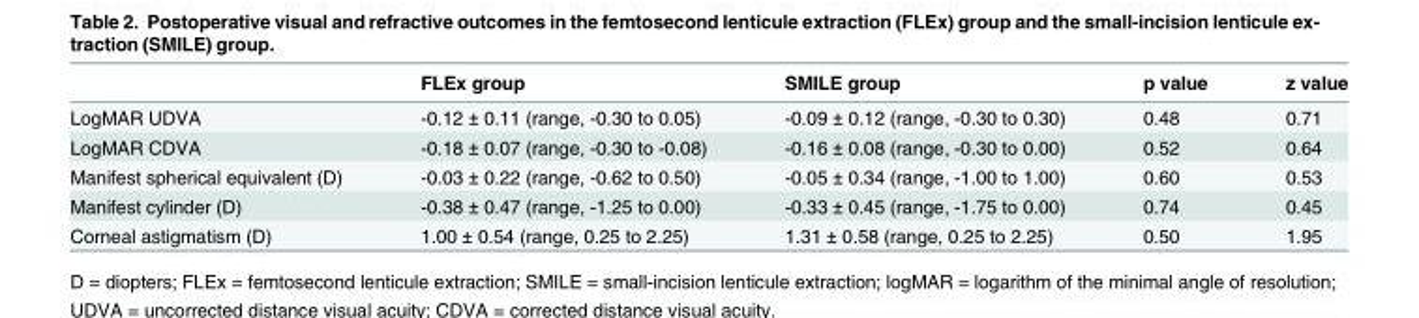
<table><thead><tr><td></td><td>FLEx group</td><td>SMILE group</td><td>p value</td><td>z value</td></tr></thead><tbody><tr><td>LogMAR UDVA</td><td>-0.12 ± 0.11 (range, -0.30 to 0.05)</td><td>-0.09 ± 0.12 (range, -0.30 to 0.30)</td><td>0.48</td><td>0.71</td></tr><tr><td>LogMAR CDVA</td><td>-0.18 ± 0.07 (range, -0.30 to -0.08)</td><td>-0.16 ± 0.08 (range, -0.30 to 0.00)</td><td>0.52</td><td>0.64</td></tr><tr><td>Manifest spherical equivalent (D)</td><td>-0.03 ± 0.22 (range, -0.62 to 0.50)</td><td>-0.05 ± 0.34 (range, -1.00 to 1.00)</td><td>0.60</td><td>0.53</td></tr><tr><td>Manifest cylinder (D)</td><td>-0.38 ± 0.47 (range, -1.25 to 0.00)</td><td>-0.33 ± 0.45 (range, -1.75 to 0.00)</td><td>0.74</td><td>0.45</td></tr><tr><td>Corneal astigmatism (D)</td><td>1.00 ± 0.54 (range, 0.25 to 2.25)</td><td>1.31 ± 0.58 (range, 0.25 to 2.25)</td><td>0.50</td><td>1.95</td></tr></tbody></table>